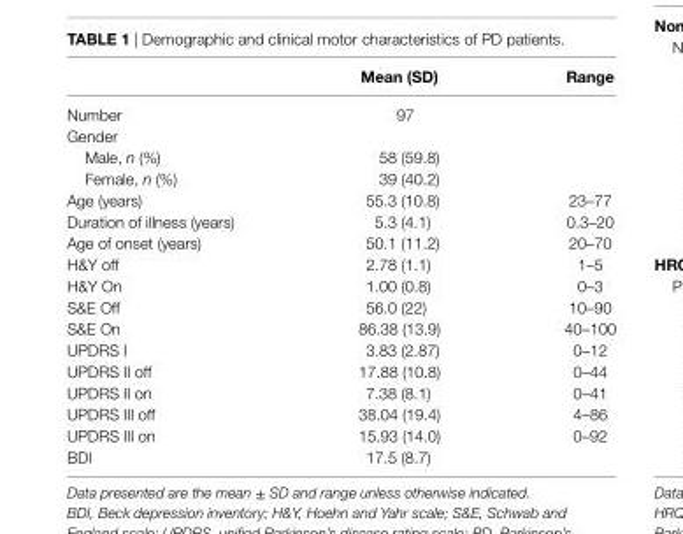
<table><thead><tr><td></td><td>Mean (sD)</td><td>range</td></tr></thead><tbody><tr><td>Number</td><td>97</td><td></td></tr><tr><td colspan="3">Gender</td></tr><tr><td>Male, n (%)</td><td>58 (59.8)</td><td></td></tr><tr><td>Female, n (%)</td><td>39 (40.2)</td><td></td></tr><tr><td>Age (years)</td><td>55.3 (10.8)</td><td>23–77</td></tr><tr><td>Duration of illness (years)</td><td>5.3 (4.1)</td><td>0.3–20</td></tr><tr><td>Age of onset (years)</td><td>50.1 (11.2)</td><td>20–70</td></tr><tr><td>H&amp;Y off</td><td>2.78 (1.1)</td><td>1–5</td></tr><tr><td>H&amp;Y On</td><td>1.00 (0.8)</td><td>0–3</td></tr><tr><td>S&amp;E Off</td><td>56.0 (22)</td><td>10–90</td></tr><tr><td>S&amp;E On</td><td>86.38 (13.9)</td><td>40–100</td></tr><tr><td>UPDRS I</td><td>3.83 (2.87)</td><td>0–12</td></tr><tr><td>UPDRS II off</td><td>17.88 (10.8)</td><td>0–44</td></tr><tr><td>UPDRS II on</td><td>7.38 (8.1)</td><td>0–41</td></tr><tr><td>UPDRS III off</td><td>38.04 (19.4)</td><td>4–86</td></tr><tr><td>UPDRS III on</td><td>15.93 (14.0)</td><td>0–92</td></tr><tr><td>BDI</td><td>17.5 (8.7)</td><td></td></tr></tbody></table>